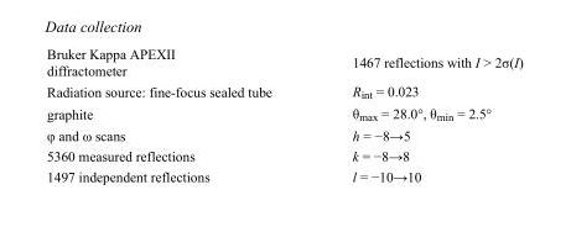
<table><tbody><tr><td>Bruker Kappa APEXII diffractometer</td><td>1467 reflections with I &gt; 2σ(I)</td></tr><tr><td>Radiation source: fine-focus sealed tube</td><td>R<sub>int</sub> = 0.023</td></tr><tr><td>graphite</td><td>θ<sub>max</sub> = 28.0°, θ<sub>min</sub> = 2.5°</td></tr><tr><td>φ and ω scans</td><td>h = −8→5</td></tr><tr><td>5360 measured reflections</td><td>k = −8→8</td></tr><tr><td>1497 independent reflections</td><td>l = −10→10</td></tr></tbody></table>